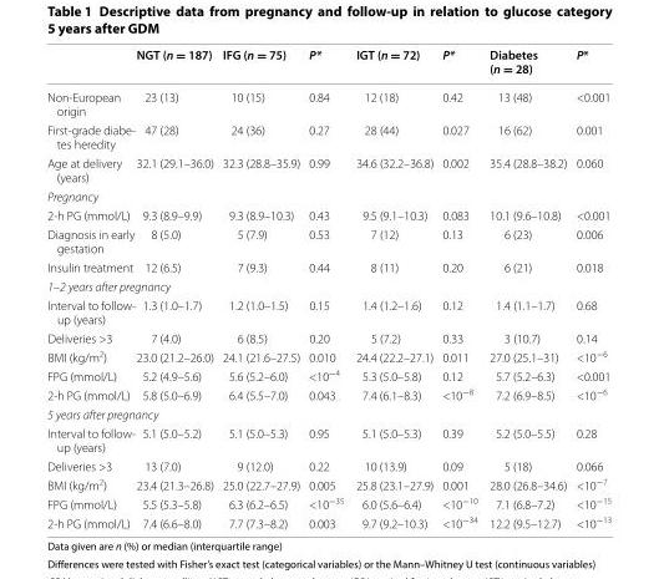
<table><thead><tr><td></td><td>NGT (n = 187)</td><td>IFG (n = 75)</td><td>P*</td><td>IGT (n = 72)</td><td>P*</td><td>Diabetes (n = 28)</td><td>P*</td></tr></thead><tbody><tr><td>Non-European origin</td><td>23 (13)</td><td>10 (15)</td><td>0.84</td><td>12 (18)</td><td>0.42</td><td>13 (48)</td><td>&lt;0.001</td></tr><tr><td>First-grade diabe- tes heredity</td><td>47 (28)</td><td>24 (36)</td><td>0.27</td><td>28 (44)</td><td>0.027</td><td>16 (62)</td><td>0.001</td></tr><tr><td>Age at delivery (years)</td><td>32.1 (29.1–36.0)</td><td>32.3 (28.8–35.9)</td><td>0.99</td><td>34.6 (32.2–36.8)</td><td>0.002</td><td>35.4 (28.8–38.2)</td><td>0.060</td></tr><tr><td colspan="8">Pregnancy</td></tr><tr><td>2-h PG (mmol/L)</td><td>9.3 (8.9–9.9)</td><td>9.3 (8.9–10.3)</td><td>0.43</td><td>9.5 (9.1–10.3)</td><td>0.083</td><td>10.1 (9.6–10.8)</td><td>&lt;0.001</td></tr><tr><td>Diagnosis in early gestation</td><td>8 (5.0)</td><td>5 (7.9)</td><td>0.53</td><td>7 (12)</td><td>0.13</td><td>6 (23)</td><td>0.006</td></tr><tr><td>Insulin treatment</td><td>12 (6.5)</td><td>7 (9.3)</td><td>0.44</td><td>8 (11)</td><td>0.20</td><td>6 (21)</td><td>0.018</td></tr><tr><td colspan="8">1–2 years after pregnancy</td></tr><tr><td>Interval to follow- up (years)</td><td>1.3 (1.0–1.7)</td><td>1.2 (1.0–1.5)</td><td>0.15</td><td>1.4 (1.2–1.6)</td><td>0.12</td><td>1.4 (1.1–1.7)</td><td>0.68</td></tr><tr><td>Deliveries &gt;3</td><td>7 (4.0)</td><td>6 (8.5)</td><td>0.20</td><td>5 (7.2)</td><td>0.33</td><td>3 (10.7)</td><td>0.14</td></tr><tr><td>BMI (kg/m<sup>2</sup>)</td><td>23.0 (21.2–26.0)</td><td>24.1 (21.6–27.5)</td><td>0.010</td><td>24.4 (22.2–27.1)</td><td>0.011</td><td>27.0 (25.1–31)</td><td>&lt;10<sup>−6</sup></td></tr><tr><td>FPG (mmol/L)</td><td>5.2 (4.9–5.6)</td><td>5.6 (5.2–6.0)</td><td>&lt;10<sup>−4</sup></td><td>5.3 (5.0–5.8)</td><td>0.12</td><td>5.7 (5.2–6.3)</td><td>&lt;0.001</td></tr><tr><td>2-h PG (mmol/L)</td><td>5.8 (5.0–6.9)</td><td>6.4 (5.5–7.0)</td><td>0.043</td><td>7.4 (6.1–8.3)</td><td>&lt;10<sup>−8</sup></td><td>7.2 (6.9–8.5)</td><td>&lt;10<sup>−6</sup></td></tr><tr><td colspan="8">5 years after pregnancy</td></tr><tr><td>Interval to follow- up (years)</td><td>5.1 (5.0–5.2)</td><td>5.1 (5.0–5.3)</td><td>0.95</td><td>5.1 (5.0–5.3)</td><td>0.39</td><td>5.2 (5.0–5.5)</td><td>0.28</td></tr><tr><td>Deliveries &gt;3</td><td>13 (7.0)</td><td>9 (12.0)</td><td>0.22</td><td>10 (13.9)</td><td>0.09</td><td>5 (18)</td><td>0.066</td></tr><tr><td>BMI (kg/m<sup>2</sup>)</td><td>23.4 (21.3–26.8)</td><td>25.0 (22.7–27.9)</td><td>0.005</td><td>25.8 (23.1–27.9)</td><td>0.001</td><td>28.0 (26.8–34.6)</td><td>&lt;10<sup>−7</sup></td></tr><tr><td>FPG (mmol/L)</td><td>5.5 (5.3–5.8)</td><td>6.3 (6.2–6.5)</td><td>&lt;10<sup>−35</sup></td><td>6.0 (5.6–6.4)</td><td>&lt;10<sup>−10</sup></td><td>7.1 (6.8–7.2)</td><td>&lt;10<sup>−15</sup></td></tr><tr><td>2-h PG (mmol/L)</td><td>7.4 (6.6–8.0)</td><td>7.7 (7.3–8.2)</td><td>0.003</td><td>9.7 (9.2–10.3)</td><td>&lt;10<sup>−34</sup></td><td>12.2 (9.5–12.7)</td><td>&lt;10<sup>−13</sup></td></tr></tbody></table>